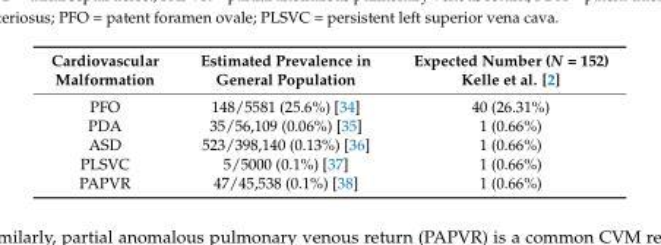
<table><thead><tr><td>Cardiovascular Malformation</td><td>Estimated Prevalence in General Population</td><td>Expected Number (N = 152) Kelle et al. [2]</td></tr></thead><tbody><tr><td>PFO</td><td>148/5581 (25.6%) [34]</td><td>40 (26.31%)</td></tr><tr><td>PDA</td><td>35/56,109 (0.06%) [35]</td><td>1 (0.66%)</td></tr><tr><td>ASD</td><td>523/398,140 (0.13%) [36]</td><td>1 (0.66%)</td></tr><tr><td>PLSVC</td><td>5/5000 (0.1%) [37]</td><td>1 (0.66%)</td></tr><tr><td>PAPVR</td><td>47/45,538 (0.1%) [38]</td><td>1 (0.66%)</td></tr></tbody></table>